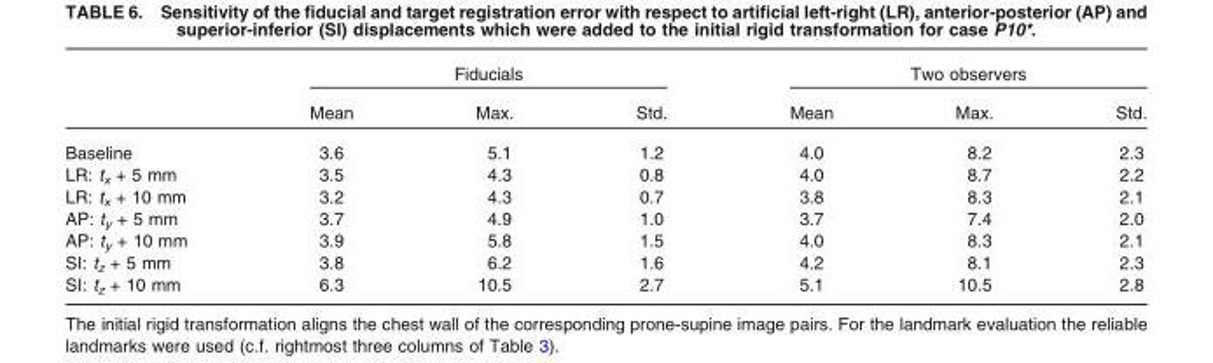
<table><thead><tr><td rowspan="2"></td><td colspan="3">Fiducials</td><td colspan="3">Two observers</td></tr><tr><td>Mean</td><td>Max.</td><td>Std.</td><td>Mean</td><td>Max.</td><td>Std.</td></tr></thead><tbody><tr><td>Baseline</td><td>3.6</td><td>5.1</td><td>1.2</td><td>4.0</td><td>8.2</td><td>2.3</td></tr><tr><td>LR: t<sub>x</sub> + 5 mm</td><td>3.5</td><td>4.3</td><td>0.8</td><td>4.0</td><td>8.7</td><td>2.2</td></tr><tr><td>LR: t<sub>x</sub> + 10 mm</td><td>3.2</td><td>4.3</td><td>0.7</td><td>3.8</td><td>8.3</td><td>2.1</td></tr><tr><td>AP: t<sub>y</sub> + 5 mm</td><td>3.7</td><td>4.9</td><td>1.0</td><td>3.7</td><td>7.4</td><td>2.0</td></tr><tr><td>AP: t<sub>y</sub> + 10 mm</td><td>3.9</td><td>5.8</td><td>1.5</td><td>4.0</td><td>8.3</td><td>2.1</td></tr><tr><td>SI: t<sub>z</sub> + 5 mm</td><td>3.8</td><td>6.2</td><td>1.6</td><td>4.2</td><td>8.1</td><td>2.3</td></tr><tr><td>SI: t<sub>z</sub> + 10 mm</td><td>6.3</td><td>10.5</td><td>2.7</td><td>5.1</td><td>10.5</td><td>2.8</td></tr></tbody></table>